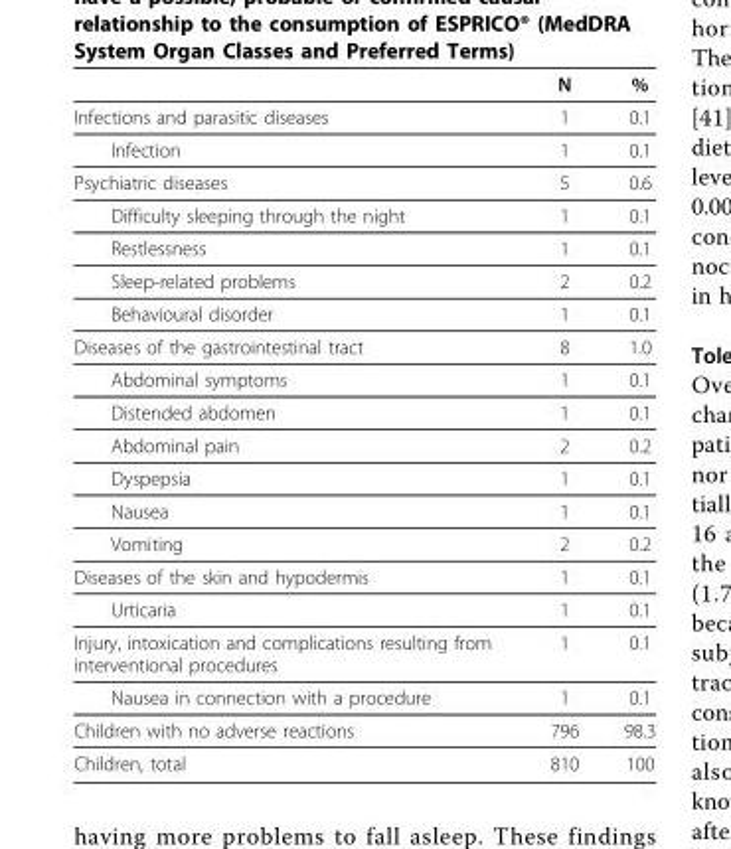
<table><thead><tr><td></td><td>N</td><td>%</td></tr></thead><tbody><tr><td>Infections and parasitic diseases</td><td>1</td><td>0.1</td></tr><tr><td>Infection</td><td>1</td><td>0.1</td></tr><tr><td>Psychiatric diseases</td><td>5</td><td>0.6</td></tr><tr><td>Difficulty sleeping through the night</td><td>1</td><td>0.1</td></tr><tr><td>Restlessness</td><td>1</td><td>0.1</td></tr><tr><td>Sleep-related problems</td><td>2</td><td>0.2</td></tr><tr><td>Behavioural disorder</td><td>1</td><td>0.1</td></tr><tr><td>Diseases of the gastrointestinal tract</td><td>8</td><td>1.0</td></tr><tr><td>Abdominal symptoms</td><td>1</td><td>0.1</td></tr><tr><td>Distended abdomen</td><td>1</td><td>0.1</td></tr><tr><td>Abdominal pain</td><td>2</td><td>0.2</td></tr><tr><td>Dyspepsia</td><td>1</td><td>0.1</td></tr><tr><td>Nausea</td><td>1</td><td>0.1</td></tr><tr><td>Vomiting</td><td>2</td><td>0.2</td></tr><tr><td>Diseases of the skin and hypodermis</td><td>1</td><td>0.1</td></tr><tr><td>Urticaria</td><td>1</td><td>0.1</td></tr><tr><td>Injury, intoxication and complications resulting from interventional procedures</td><td>1</td><td>0.1</td></tr><tr><td>Nausea in connection with a procedure</td><td>1</td><td>0.1</td></tr><tr><td>Children with no adverse reactions</td><td>796</td><td>98.3</td></tr><tr><td>Children, total</td><td>810</td><td>100</td></tr></tbody></table>